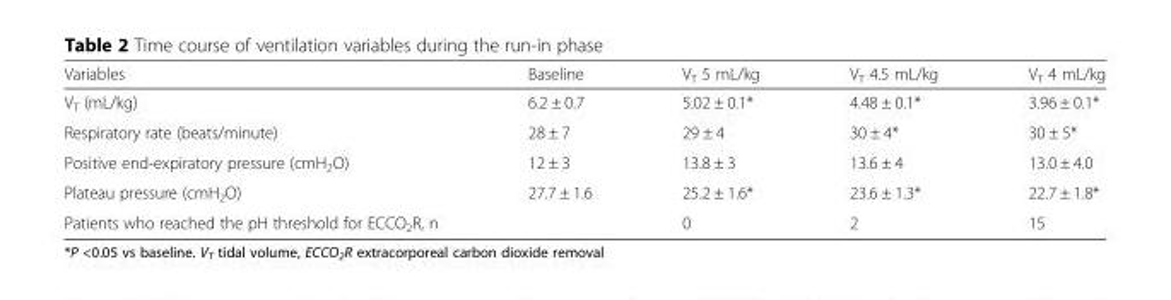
<table><thead><tr><td>Variables</td><td>Baseline</td><td>V<sub>T</sub> 5 mL/kg</td><td>V<sub>T</sub> 4.5 mL/kg</td><td>V<sub>T</sub> 4 mL/kg</td></tr></thead><tbody><tr><td>V<sub>T</sub> (mL/kg)</td><td>6.2 ± 0.7</td><td>5.02 ± 0.1*</td><td>4.48 ± 0.1*</td><td>3.96 ± 0.1*</td></tr><tr><td>Respiratory rate (beats/minute)</td><td>28 ± 7</td><td>29 ± 4</td><td>30 ± 4*</td><td>30 ± 5*</td></tr><tr><td>Positive end-expiratory pressure (cmH<sub>2</sub>O)</td><td>12 ± 3</td><td>13.8 ± 3</td><td>13.6 ± 4</td><td>13.0 ± 4.0</td></tr><tr><td>Plateau pressure (cmH<sub>2</sub>O)</td><td>27.7 ± 1.6</td><td>25.2 ± 1.6*</td><td>23.6 ± 1.3*</td><td>22.7 ± 1.8*</td></tr><tr><td>Patients who reached the pH threshold for ECCO<sub>2</sub>R, n</td><td></td><td>0</td><td>2</td><td>15</td></tr></tbody></table>